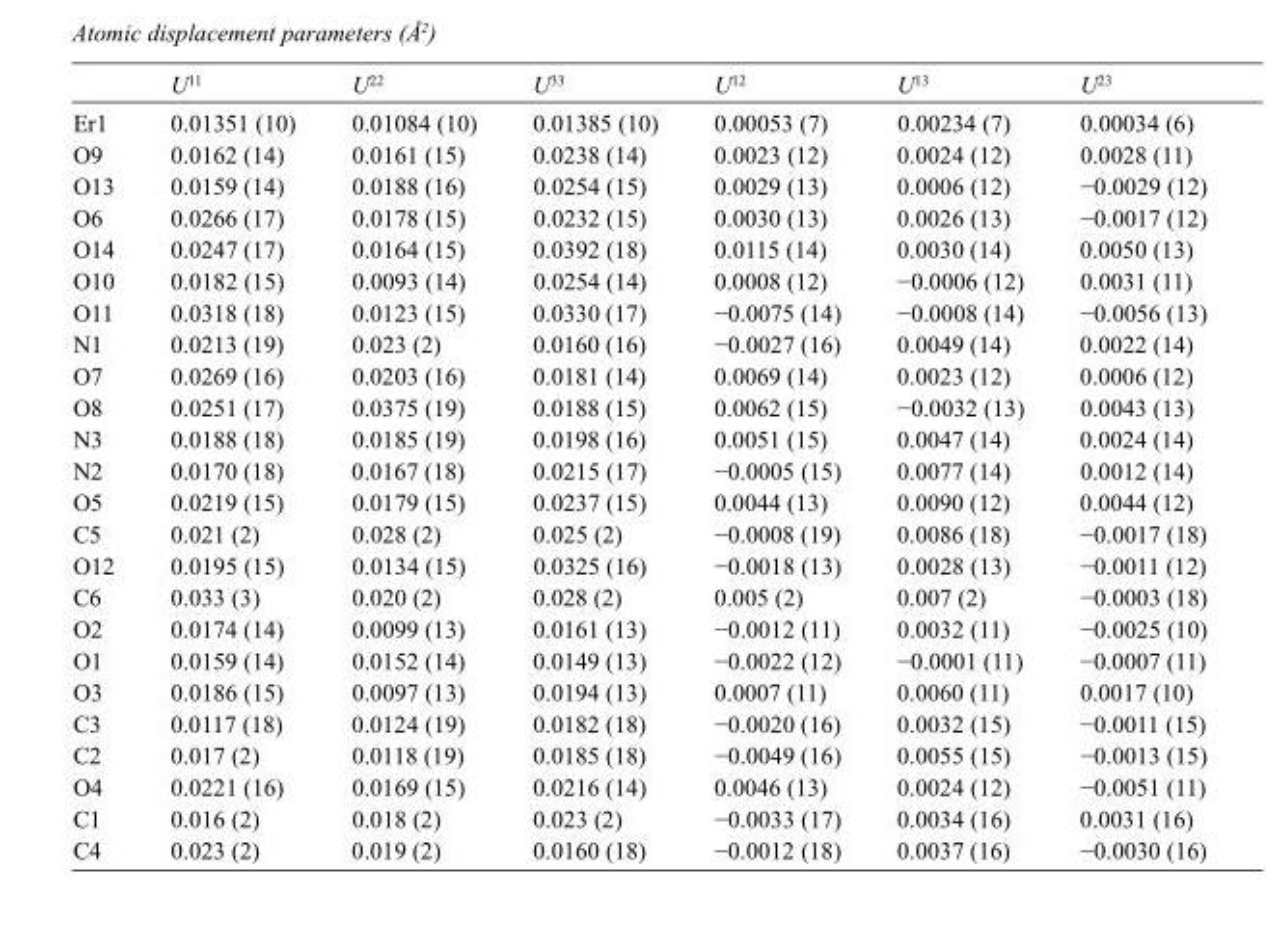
<table><thead><tr><td></td><td>U<sup>11</sup></td><td>U<sup>22</sup></td><td>U<sup>33</sup></td><td>U<sup>12</sup></td><td>U<sup>13</sup></td><td>U<sup>23</sup></td></tr></thead><tbody><tr><td>Er1</td><td>0.01351 (10)</td><td>0.01084 (10)</td><td>0.01385 (10)</td><td>0.00053 (7)</td><td>0.00234 (7)</td><td>0.00034 (6)</td></tr><tr><td>O9</td><td>0.0162 (14)</td><td>0.0161 (15)</td><td>0.0238 (14)</td><td>0.0023 (12)</td><td>0.0024 (12)</td><td>0.0028 (11)</td></tr><tr><td>O13</td><td>0.0159 (14)</td><td>0.0188 (16)</td><td>0.0254 (15)</td><td>0.0029 (13)</td><td>0.0006 (12)</td><td>−0.0029 (12)</td></tr><tr><td>O6</td><td>0.0266 (17)</td><td>0.0178 (15)</td><td>0.0232 (15)</td><td>0.0030 (13)</td><td>0.0026 (13)</td><td>−0.0017 (12)</td></tr><tr><td>O14</td><td>0.0247 (17)</td><td>0.0164 (15)</td><td>0.0392 (18)</td><td>0.0115 (14)</td><td>0.0030 (14)</td><td>0.0050 (13)</td></tr><tr><td>O10</td><td>0.0182 (15)</td><td>0.0093 (14)</td><td>0.0254 (14)</td><td>0.0008 (12)</td><td>−0.0006 (12)</td><td>0.0031 (11)</td></tr><tr><td>O11</td><td>0.0318 (18)</td><td>0.0123 (15)</td><td>0.0330 (17)</td><td>−0.0075 (14)</td><td>−0.0008 (14)</td><td>−0.0056 (13)</td></tr><tr><td>N1</td><td>0.0213 (19)</td><td>0.023 (2)</td><td>0.0160 (16)</td><td>−0.0027 (16)</td><td>0.0049 (14)</td><td>0.0022 (14)</td></tr><tr><td>O7</td><td>0.0269 (16)</td><td>0.0203 (16)</td><td>0.0181 (14)</td><td>0.0069 (14)</td><td>0.0023 (12)</td><td>0.0006 (12)</td></tr><tr><td>O8</td><td>0.0251 (17)</td><td>0.0375 (19)</td><td>0.0188 (15)</td><td>0.0062 (15)</td><td>−0.0032 (13)</td><td>0.0043 (13)</td></tr><tr><td>N3</td><td>0.0188 (18)</td><td>0.0185 (19)</td><td>0.0198 (16)</td><td>0.0051 (15)</td><td>0.0047 (14)</td><td>0.0024 (14)</td></tr><tr><td>N2</td><td>0.0170 (18)</td><td>0.0167 (18)</td><td>0.0215 (17)</td><td>−0.0005 (15)</td><td>0.0077 (14)</td><td>0.0012 (14)</td></tr><tr><td>O5</td><td>0.0219 (15)</td><td>0.0179 (15)</td><td>0.0237 (15)</td><td>0.0044 (13)</td><td>0.0090 (12)</td><td>0.0044 (12)</td></tr><tr><td>C5</td><td>0.021 (2)</td><td>0.028 (2)</td><td>0.025 (2)</td><td>−0.0008 (19)</td><td>0.0086 (18)</td><td>−0.0017 (18)</td></tr><tr><td>O12</td><td>0.0195 (15)</td><td>0.0134 (15)</td><td>0.0325 (16)</td><td>−0.0018 (13)</td><td>0.0028 (13)</td><td>−0.0011 (12)</td></tr><tr><td>C6</td><td>0.033 (3)</td><td>0.020 (2)</td><td>0.028 (2)</td><td>0.005 (2)</td><td>0.007 (2)</td><td>−0.0003 (18)</td></tr><tr><td>O2</td><td>0.0174 (14)</td><td>0.0099 (13)</td><td>0.0161 (13)</td><td>−0.0012 (11)</td><td>0.0032 (11)</td><td>−0.0025 (10)</td></tr><tr><td>O1</td><td>0.0159 (14)</td><td>0.0152 (14)</td><td>0.0149 (13)</td><td>−0.0022 (12)</td><td>−0.0001 (11)</td><td>−0.0007 (11)</td></tr><tr><td>O3</td><td>0.0186 (15)</td><td>0.0097 (13)</td><td>0.0194 (13)</td><td>0.0007 (11)</td><td>0.0060 (11)</td><td>0.0017 (10)</td></tr><tr><td>C3</td><td>0.0117 (18)</td><td>0.0124 (19)</td><td>0.0182 (18)</td><td>−0.0020 (16)</td><td>0.0032 (15)</td><td>−0.0011 (15)</td></tr><tr><td>C2</td><td>0.017 (2)</td><td>0.0118 (19)</td><td>0.0185 (18)</td><td>−0.0049 (16)</td><td>0.0055 (15)</td><td>−0.0013 (15)</td></tr><tr><td>O4</td><td>0.0221 (16)</td><td>0.0169 (15)</td><td>0.0216 (14)</td><td>0.0046 (13)</td><td>0.0024 (12)</td><td>−0.0051 (11)</td></tr><tr><td>C1</td><td>0.016 (2)</td><td>0.018 (2)</td><td>0.023 (2)</td><td>−0.0033 (17)</td><td>0.0034 (16)</td><td>0.0031 (16)</td></tr><tr><td>C4</td><td>0.023 (2)</td><td>0.019 (2)</td><td>0.0160 (18)</td><td>−0.0012 (18)</td><td>0.0037 (16)</td><td>−0.0030 (16)</td></tr></tbody></table>